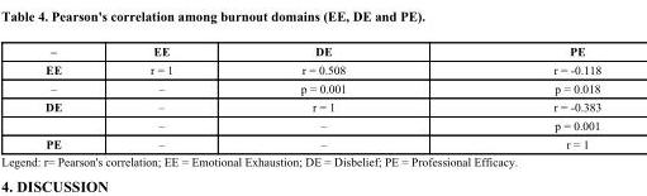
<table><thead><tr><td>–</td><td>EE</td><td>DE</td><td>PE</td></tr></thead><tbody><tr><td>EE</td><td>r = 1</td><td>r = 0.508</td><td>r = -0.118</td></tr><tr><td>–</td><td>–</td><td>p = 0.001</td><td>p = 0.018</td></tr><tr><td rowspan="2">DE</td><td>–</td><td>r = 1</td><td>r = -0.383</td></tr><tr><td>–</td><td>–</td><td>p = 0.001</td></tr><tr><td>PE</td><td>–</td><td>–</td><td>r = 1</td></tr></tbody></table>